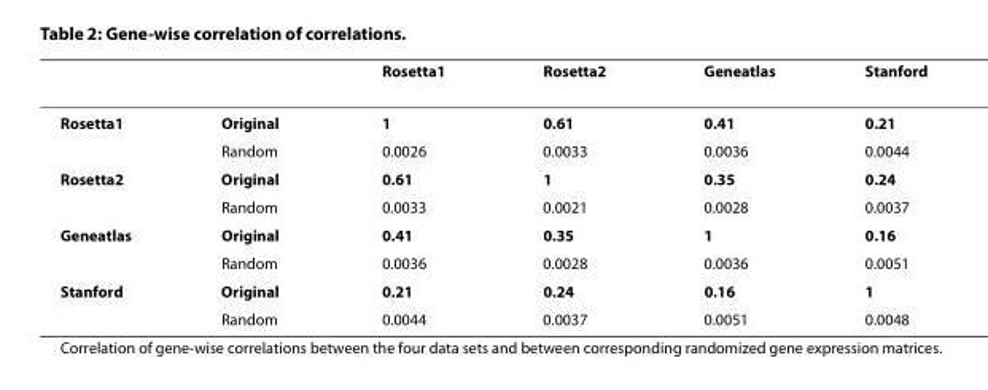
<table><thead><tr><td></td><td></td><td>Rosetta1</td><td>Rosetta2</td><td>Geneatlas</td><td>Stanford</td></tr></thead><tbody><tr><td rowspan="2">Rosetta1</td><td>Original</td><td>1</td><td>0.61</td><td>0.41</td><td>0.21</td></tr><tr><td>Random</td><td>0.0026</td><td>0.0033</td><td>0.0036</td><td>0.0044</td></tr><tr><td rowspan="2">Rosetta2</td><td>Original</td><td>0.61</td><td>1</td><td>0.35</td><td>0.24</td></tr><tr><td>Random</td><td>0.0033</td><td>0.0021</td><td>0.0028</td><td>0.0037</td></tr><tr><td rowspan="2">Geneatlas</td><td>Original</td><td>0.41</td><td>0.35</td><td>1</td><td>0.16</td></tr><tr><td>Random</td><td>0.0036</td><td>0.0028</td><td>0.0036</td><td>0.0051</td></tr><tr><td rowspan="2">Stanford</td><td>Original</td><td>0.21</td><td>0.24</td><td>0.16</td><td>1</td></tr><tr><td>Random</td><td>0.0044</td><td>0.0037</td><td>0.0051</td><td>0.0048</td></tr></tbody></table>